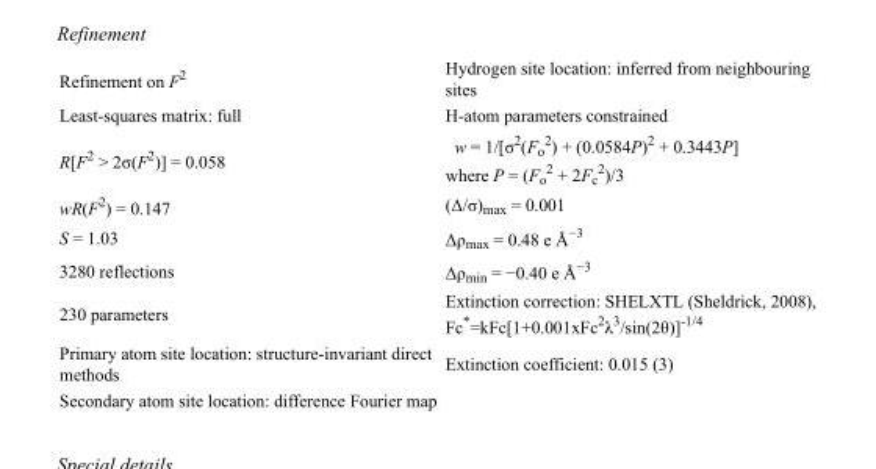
<table><tbody><tr><td>Refinement on F<sup>2</sup></td><td>Hydrogen site location: inferred from neighbouring sites</td></tr><tr><td>Least-squares matrix: full</td><td>H-atom parameters constrained</td></tr><tr><td>R[F<sup>2</sup> &gt; 2σ(F<sup>2</sup>)] = 0.058</td><td>w = 1/[σ<sup>2</sup>(F<sub>o</sub> <sup>2</sup>) + (0.0584P)<sup>2</sup> + 0.3443P] where P = (F<sub>o</sub> <sup>2</sup> + 2F<sub>c</sub> <sup>2</sup>)/3</td></tr><tr><td>wR(F<sup>2</sup>) = 0.147</td><td>(Δ/σ)<sub>max</sub> = 0.001</td></tr><tr><td>S = 1.03</td><td>Δρ<sub>max</sub> = 0.48 e Å<sup>−3</sup></td></tr><tr><td>3280 reflections</td><td>Δρ<sub>min</sub> = −0.40 e Å<sup>−3</sup></td></tr><tr><td>230 parameters</td><td>Extinction correction: SHELXTL (Sheldrick, 2008), Fc*=kFc[1+0.001xFc<sup>2</sup>λ<sup>3</sup>/sin(2θ)]<sup>-1/4</sup></td></tr><tr><td>Primary atom site location: structure-invariant direct methods</td><td>Extinction coefficient: 0.015 (3)</td></tr><tr><td>Secondary atom site location: difference Fourier map</td><td></td></tr></tbody></table>